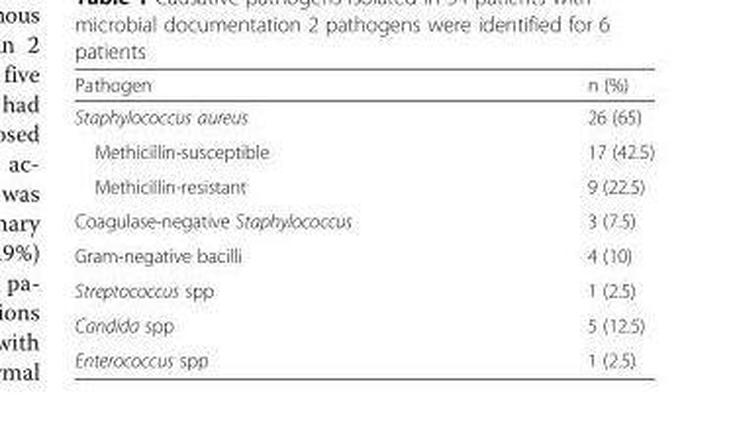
<table><thead><tr><td>Pathogen</td><td>n (%)</td></tr></thead><tbody><tr><td>Staphylococcus aureus</td><td>26 (65)</td></tr><tr><td>Methicillin-susceptible</td><td>17 (42.5)</td></tr><tr><td>Methicillin-resistant</td><td>9 (22.5)</td></tr><tr><td>Coagulase-negative Staphylococcus</td><td>3 (7.5)</td></tr><tr><td>Gram-negative bacilli</td><td>4 (10)</td></tr><tr><td>Streptococcus spp</td><td>1 (2.5)</td></tr><tr><td>Candida spp</td><td>5 (12.5)</td></tr><tr><td>Enterococcus spp</td><td>1 (2.5)</td></tr></tbody></table>